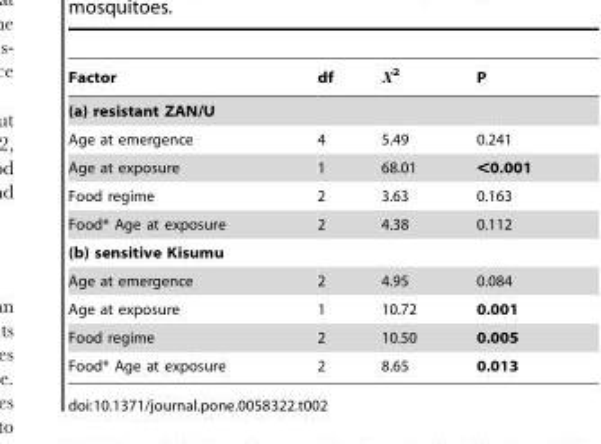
<table><thead><tr><td>Factor</td><td>df</td><td>X2</td><td>P</td></tr></thead><tbody><tr><td colspan="4">(a) resistant ZAN/U</td></tr><tr><td>Age at emergence</td><td>4</td><td>5.49</td><td>0.241</td></tr><tr><td>Age at exposure</td><td>1</td><td>68.01</td><td>&lt;0.001</td></tr><tr><td>Food regime</td><td>2</td><td>3.63</td><td>0.163</td></tr><tr><td>Food* Age at exposure</td><td>2</td><td>4.38</td><td>0.112</td></tr><tr><td colspan="4">(b) sensitive Kisumu</td></tr><tr><td>Age at emergence</td><td>2</td><td>4.95</td><td>0.084</td></tr><tr><td>Age at exposure</td><td>1</td><td>10.72</td><td>0.001</td></tr><tr><td>Food regime</td><td>2</td><td>10.50</td><td>0.005</td></tr><tr><td>Food* Age at exposure</td><td>2</td><td>8.65</td><td>0.013</td></tr></tbody></table>